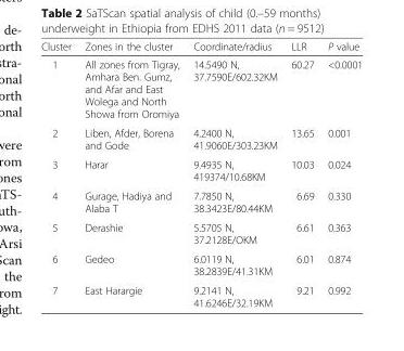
<table><thead><tr><td>Cluster</td><td>Zones in the cluster</td><td>Coordinate/radius</td><td>LLR</td><td>P value</td></tr></thead><tbody><tr><td>1</td><td>All zones from Tigray, Amhara Ben. Gumz, and Afar and East Wolega and North Showa from Oromiya</td><td>14.5490 N, 37.7590E/602.32KM</td><td>60.27</td><td>&lt;0.0001</td></tr><tr><td>2</td><td>Liben, Afder, Borena and Gode</td><td>4.2400 N, 41.9060E/303.23KM</td><td>13.65</td><td>0.001</td></tr><tr><td>3</td><td>Harar</td><td>9.4935 N, 419374/10.68KM</td><td>10.03</td><td>0.024</td></tr><tr><td>4</td><td>Gurage, Hadiya and Alaba T</td><td>7.7850 N, 38.3423E/80.44KM</td><td>6.69</td><td>0.330</td></tr><tr><td>5</td><td>Derashie</td><td>5.5705 N, 37.2128E/OKM</td><td>6.61</td><td>0.363</td></tr><tr><td>6</td><td>Gedeo</td><td>6.0119 N, 38.2839E/41.31KM</td><td>6.01</td><td>0.874</td></tr><tr><td>7</td><td>East Harargie</td><td>9.2141 N, 41.6246E/32.19KM</td><td>9.21</td><td>0.992</td></tr></tbody></table>